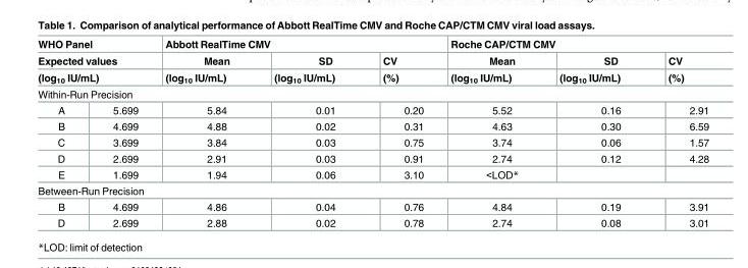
<table><thead><tr><td rowspan="3" colspan="2">WHO Panel Expected values (log<sub>10</sub> IU/mL)</td><td colspan="3">Abbott RealTime CMV</td><td colspan="3">Roche CAP/CTM CMV</td></tr><tr><td rowspan="2">Mean (log<sub>10</sub> IU/mL)</td><td rowspan="2">SD (log<sub>10</sub> IU/mL)</td><td rowspan="2">CV (%)</td><td rowspan="2">Mean (log<sub>10</sub> IU/mL)</td><td rowspan="2">SD (log<sub>10</sub> IU/mL)</td><td rowspan="2">CV (%)</td></tr><tr></tr><tr><td colspan="8">Within-Run Precision</td></tr><tr><td>A</td><td>5.699</td><td>5.84</td><td>0.01</td><td>0.20</td><td>5.52</td><td>0.16</td><td>2.91</td></tr></thead><tbody><tr><td>B</td><td>4.699</td><td>4.88</td><td>0.02</td><td>0.31</td><td>4.63</td><td>0.30</td><td>6.59</td></tr><tr><td>C</td><td>3.699</td><td>3.84</td><td>0.03</td><td>0.75</td><td>3.74</td><td>0.06</td><td>1.57</td></tr><tr><td>D</td><td>2.699</td><td>2.91</td><td>0.03</td><td>0.91</td><td>2.74</td><td>0.12</td><td>4.28</td></tr><tr><td>E</td><td>1.699</td><td>1.94</td><td>0.06</td><td>3.10</td><td>&lt;LOD*</td><td></td><td></td></tr><tr><td colspan="8">Between-Run Precision</td></tr><tr><td>B</td><td>4.699</td><td>4.86</td><td>0.04</td><td>0.76</td><td>4.84</td><td>0.19</td><td>3.91</td></tr><tr><td>D</td><td>2.699</td><td>2.88</td><td>0.02</td><td>0.78</td><td>2.74</td><td>0.08</td><td>3.01</td></tr></tbody></table>